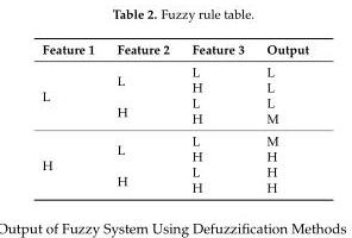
<table><thead><tr><td>Feature 1</td><td>Feature 2</td><td>Feature 3</td><td>Output</td></tr></thead><tbody><tr><td rowspan="4">L</td><td rowspan="2">L</td><td>L</td><td>L</td></tr><tr><td>H</td><td>L</td></tr><tr><td rowspan="2">H</td><td>L</td><td>L</td></tr><tr><td>H</td><td>M</td></tr><tr><td rowspan="4">H</td><td rowspan="2">L</td><td>L</td><td>M</td></tr><tr><td>H</td><td>H</td></tr><tr><td rowspan="2">H</td><td>L</td><td>H</td></tr><tr><td>H</td><td>H</td></tr></tbody></table>